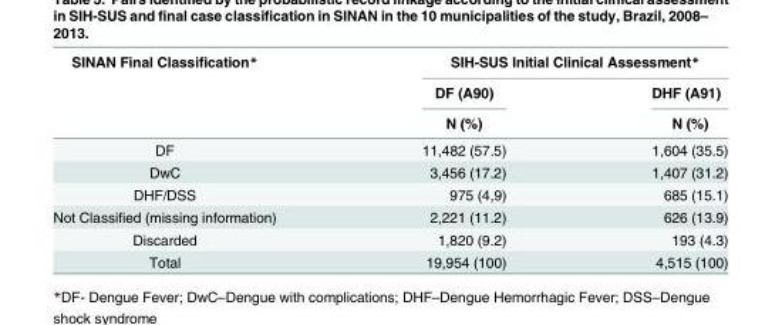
<table><thead><tr><td rowspan="3">SINAN Final Classification*</td><td colspan="2">SIH-SUS Initial Clinical Assessment*</td></tr><tr><td rowspan="2">DF (A90) N (%)</td><td rowspan="2">DHF (A91) N (%)</td></tr><tr></tr></thead><tbody><tr><td>DF</td><td>11,482 (57.5)</td><td>1,604 (35.5)</td></tr><tr><td>DwC</td><td>3,456 (17.2)</td><td>1,407 (31.2)</td></tr><tr><td>DHF/DSS</td><td>975 (4,9)</td><td>685 (15.1)</td></tr><tr><td>Not Classified (missing information)</td><td>2,221 (11.2)</td><td>626 (13.9)</td></tr><tr><td>Discarded</td><td>1,820 (9.2)</td><td>193 (4.3)</td></tr><tr><td>Total</td><td>19,954 (100)</td><td>4,515 (100)</td></tr></tbody></table>